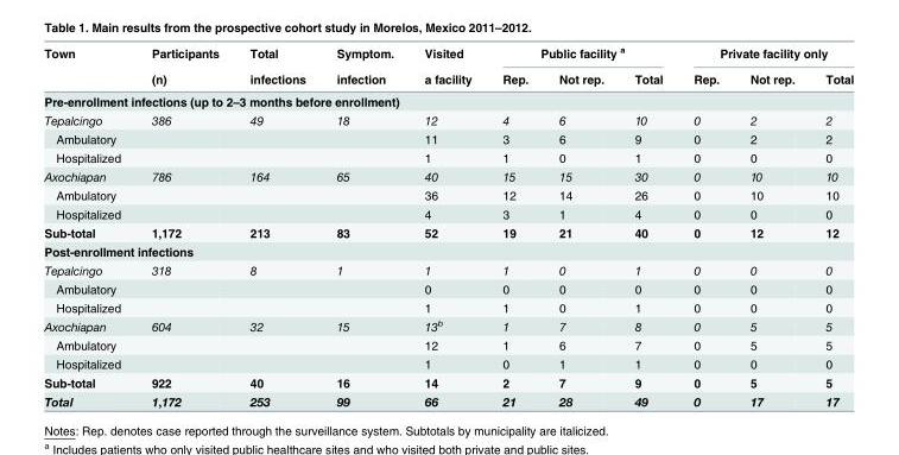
<table><thead><tr><td rowspan="2">Town</td><td rowspan="2">Participants (n)</td><td rowspan="2">Total infections</td><td rowspan="2">Symptom. infection</td><td rowspan="2">Visited a facility</td><td colspan="3">Public facility <sup>a</sup></td><td colspan="3">Private facility only</td></tr><tr><td>Rep.</td><td>Not rep.</td><td>Total</td><td>Rep.</td><td>Not rep.</td><td>Total</td></tr></thead><tbody><tr><td colspan="11">Pre-enrollment infections (up to 2–3 months before enrollment)</td></tr><tr><td>Tepalcingo</td><td>386</td><td>49</td><td>18</td><td>12</td><td>4</td><td>6</td><td>10</td><td>0</td><td>2</td><td>2</td></tr><tr><td>Ambulatory</td><td></td><td></td><td></td><td>11</td><td>3</td><td>6</td><td>9</td><td>0</td><td>2</td><td>2</td></tr><tr><td>Hospitalized</td><td></td><td></td><td></td><td>1</td><td>1</td><td>0</td><td>1</td><td>0</td><td>0</td><td>0</td></tr><tr><td>Axochiapan</td><td>786</td><td>164</td><td>65</td><td>40</td><td>15</td><td>15</td><td>30</td><td>0</td><td>10</td><td>10</td></tr><tr><td>Ambulatory</td><td></td><td></td><td></td><td>36</td><td>12</td><td>14</td><td>26</td><td>0</td><td>10</td><td>10</td></tr><tr><td>Hospitalized</td><td></td><td></td><td></td><td>4</td><td>3</td><td>1</td><td>4</td><td>0</td><td>0</td><td>0</td></tr><tr><td>Sub-total</td><td>1,172</td><td>213</td><td>83</td><td>52</td><td>19</td><td>21</td><td>40</td><td>0</td><td>12</td><td>12</td></tr><tr><td colspan="11">Post-enrollment infections</td></tr><tr><td>Tepalcingo</td><td>318</td><td>8</td><td>1</td><td>1</td><td>1</td><td>0</td><td>1</td><td>0</td><td>0</td><td>0</td></tr><tr><td>Ambulatory</td><td></td><td></td><td></td><td>0</td><td>0</td><td>0</td><td>0</td><td>0</td><td>0</td><td>0</td></tr><tr><td>Hospitalized</td><td></td><td></td><td></td><td>1</td><td>1</td><td>0</td><td>1</td><td>0</td><td>0</td><td>0</td></tr><tr><td>Axochiapan</td><td>604</td><td>32</td><td>15</td><td>13<sup>b</sup></td><td>1</td><td>7</td><td>8</td><td>0</td><td>5</td><td>5</td></tr><tr><td>Ambulatory</td><td></td><td></td><td></td><td>12</td><td>1</td><td>6</td><td>7</td><td>0</td><td>5</td><td>5</td></tr><tr><td>Hospitalized</td><td></td><td></td><td></td><td>1</td><td>0</td><td>1</td><td>1</td><td>0</td><td>0</td><td>0</td></tr><tr><td>Sub-total</td><td>922</td><td>40</td><td>16</td><td>14</td><td>2</td><td>7</td><td>9</td><td>0</td><td>5</td><td>5</td></tr><tr><td>Total</td><td>1,172</td><td>253</td><td>99</td><td>66</td><td>21</td><td>28</td><td>49</td><td>0</td><td>17</td><td>17</td></tr></tbody></table>